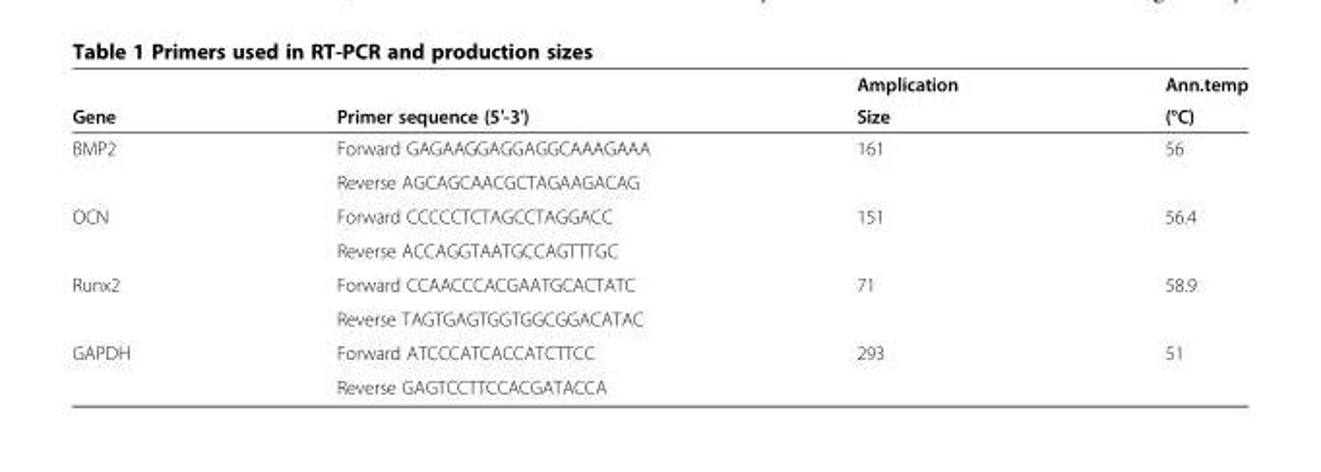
<table><thead><tr><td rowspan="2">Gene</td><td rowspan="2">Primer sequence (5′-3′)</td><td rowspan="2">Amplication Size</td><td rowspan="2">Ann.temp (°C)</td></tr><tr></tr></thead><tbody><tr><td rowspan="2">BMP2</td><td>Forward GAGAAGGAGGAGGCAAAGAAA</td><td>161</td><td>56</td></tr><tr><td>Reverse AGCAGCAACGCTAGAAGACAG</td><td></td><td></td></tr><tr><td rowspan="2">OCN</td><td>Forward CCCCCTCTAGCCTAGGACC</td><td>151</td><td>56.4</td></tr><tr><td>Reverse ACCAGGTAATGCCAGTTTGC</td><td></td><td></td></tr><tr><td rowspan="2">Runx2</td><td>Forward CCAACCCACGAATGCACTATC</td><td>71</td><td>58.9</td></tr><tr><td>Reverse TAGTGAGTGGTGGCGGACATAC</td><td></td><td></td></tr><tr><td rowspan="2">GAPDH</td><td>Forward ATCCCATCACCATCTTCC</td><td>293</td><td>51</td></tr><tr><td>Reverse GAGTCCTTCCACGATACCA</td><td></td><td></td></tr></tbody></table>